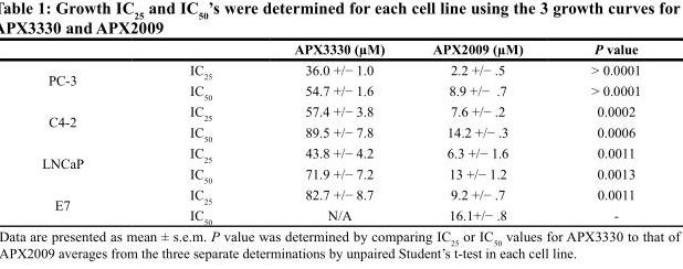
<table><thead><tr><td></td><td></td><td>APX3330 (µM)</td><td>APX2009 (µM)</td><td>P value</td></tr></thead><tbody><tr><td rowspan="2">PC-3</td><td>IC<sub>25</sub></td><td>36.0 +/− 1.0</td><td>2.2 +/− .5</td><td>&gt; 0.0001</td></tr><tr><td>IC<sub>50</sub></td><td>54.7 +/− 1.6</td><td>8.9 +/− .7</td><td>&gt; 0.0001</td></tr><tr><td rowspan="2">C4-2</td><td>IC<sub>25</sub></td><td>57.4 +/− 3.8</td><td>7.6 +/− .2</td><td>0.0002</td></tr><tr><td>IC<sub>50</sub></td><td>89.5 +/− 7.8</td><td>14.2 +/− .3</td><td>0.0006</td></tr><tr><td rowspan="2">LNCaP</td><td>IC<sub>25</sub></td><td>43.8 +/− 4.2</td><td>6.3 +/− 1.6</td><td>0.0011</td></tr><tr><td>IC<sub>50</sub></td><td>71.9 +/− 7.2</td><td>13 +/− 1.2</td><td>0.0013</td></tr><tr><td rowspan="2">E7</td><td>IC<sub>25</sub></td><td>82.7 +/− 8.7</td><td>9.2 +/− .7</td><td>0.0011</td></tr><tr><td>IC<sub>50</sub></td><td>N/A</td><td>16.1+/− .8</td><td>-</td></tr></tbody></table>